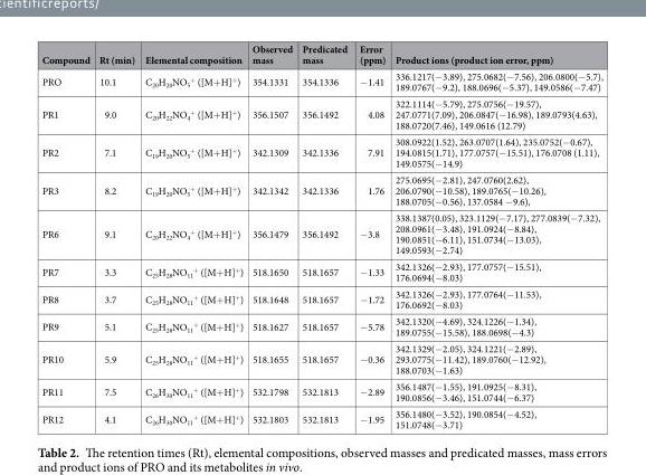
<table><thead><tr><td>Compound</td><td>Rt (min)</td><td>Elemental composition</td><td>Observed mass</td><td>Predicated mass</td><td>Error (ppm)</td><td>Product ions (product ion error, ppm)</td></tr></thead><tbody><tr><td>PRO</td><td>10.1</td><td>C<sub>20</sub>H<sub>20</sub>NO<sub>5</sub> <sup>+</sup> ([M+H]<sup>+</sup>)</td><td>354.1331</td><td>354.1336</td><td>−1.41</td><td>336.1217(−3.89), 275.0682(−7.56), 206.0800(−5.7), 189.0767(−9.2), 188.0696(−5.37), 149.0586(−7.47)</td></tr><tr><td>PR1</td><td>9.0</td><td>C<sub>20</sub>H<sub>22</sub>NO<sub>4</sub> <sup>+</sup> ([M+H]<sup>+</sup>)</td><td>356.1507</td><td>356.1492</td><td>4.08</td><td>322.1114(−5.79), 275.0756(−19.57), 247.0771(7.09), 206.0847(−16.98), 189.0793(4.63), 188.0720(7.46), 149.0616 (12.79)</td></tr><tr><td>PR2</td><td>7.1</td><td>C<sub>19</sub>H<sub>20</sub>NO<sub>5</sub> <sup>+</sup> ([M+H]<sup>+</sup>)</td><td>342.1309</td><td>342.1336</td><td>7.91</td><td>308.0922(1.52), 263.0707(1.64), 235.0752(−0.67), 194.0815(1.71), 177.0757(−15.51), 176.0708 (1.11), 149.0575(−14.9)</td></tr><tr><td>PR3</td><td>8.2</td><td>C<sub>19</sub>H<sub>20</sub>NO<sub>5</sub> <sup>+</sup> ([M+H]<sup>+</sup>)</td><td>342.1342</td><td>342.1336</td><td>1.76</td><td>275.0695(−2.81), 247.0760(2.62), 206.0790(−10.58), 189.0765(−10.26), 188.0705(−0.56), 137.0584 −9.6),</td></tr><tr><td>PR6</td><td>9.1</td><td>C<sub>20</sub>H<sub>22</sub>NO<sub>4</sub> <sup>+</sup> ([M+H]<sup>+</sup>)</td><td>356.1479</td><td>356.1492</td><td>−3.8</td><td>338.1387(0.05), 323.1129(−7.17), 277.0839(−7.32), 208.0961(−3.48), 191.0924(−8.84), 190.0851(−6.11), 151.0734(−13.03), 149.0593(−2.74)</td></tr><tr><td>PR7</td><td>3.3</td><td>C<sub>25</sub>H<sub>28</sub>NO<sub>11</sub> <sup>+</sup> ([M+H]<sup>+</sup>)</td><td>518.1650</td><td>518.1657</td><td>−1.33</td><td>342.1326(−2.93), 177.0757(−15.51), 176.0694(−8.03)</td></tr><tr><td>PR8</td><td>3.7</td><td>C<sub>25</sub>H<sub>28</sub>NO<sub>11</sub> <sup>+</sup> ([M+H]<sup>+</sup>)</td><td>518.1648</td><td>518.1657</td><td>−1.72</td><td>342.1326(−2.93), 177.0764(−11.53), 176.0692(−8.03)</td></tr><tr><td>PR9</td><td>5.1</td><td>C<sub>25</sub>H<sub>28</sub>NO<sub>11</sub> <sup>+</sup> ([M+H]<sup>+</sup>)</td><td>518.1627</td><td>518.1657</td><td>−5.78</td><td>342.1320(−4.69), 324.1226(−1.34), 189.0755(−15.58), 188.0698(−4.3)</td></tr><tr><td>PR10</td><td>5.9</td><td>C<sub>25</sub>H<sub>28</sub>NO<sub>11</sub> <sup>+</sup> ([M+H]<sup>+</sup>)</td><td>518.1655</td><td>518.1657</td><td>−0.36</td><td>342.1329(−2.05), 324.1221(−2.89), 293.0775(−11.42), 189.0760(−12.92), 188.0703(−1.63)</td></tr><tr><td>PR11</td><td>7.5</td><td>C<sub>26</sub>H<sub>30</sub>NO<sub>11</sub> <sup>+</sup> ([M+H]<sup>+</sup>)</td><td>532.1798</td><td>532.1813</td><td>−2.89</td><td>356.1487(−1.55), 191.0925(−8.31), 190.0856(−3.46), 151.0744(−6.37)</td></tr><tr><td>PR12</td><td>4.1</td><td>C<sub>26</sub>H<sub>30</sub>NO<sub>11</sub> <sup>+</sup> ([M+H]<sup>+</sup>)</td><td>532.1803</td><td>532.1813</td><td>−1.95</td><td>356.1480(−3.52), 190.0854(−4.52), 151.0748(−3.71)</td></tr></tbody></table>